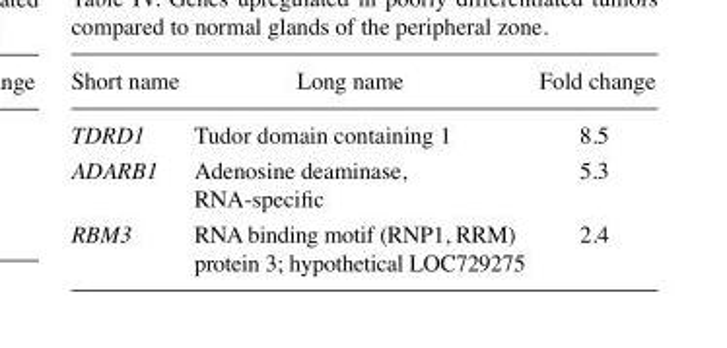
<table><thead><tr><td>Short name</td><td>Long name</td><td>Fold change</td></tr></thead><tbody><tr><td>TDRD1</td><td>Tudor domain containing 1</td><td>8.5</td></tr><tr><td>ADARB1</td><td>Adenosine deaminase, RNA-specific</td><td>5.3</td></tr><tr><td>RBM3</td><td>RNA binding motif (RNP1, RRM) protein 3; hypothetical LOC729275</td><td>2.4</td></tr></tbody></table>